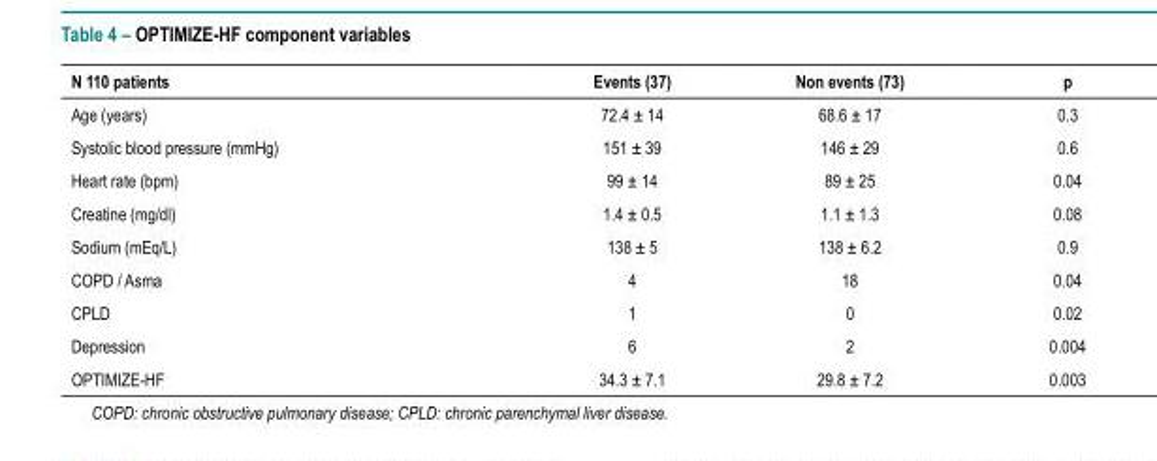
<table><thead><tr><td>N 110 patients</td><td>Events (37)</td><td>Non events (73)</td><td>p</td></tr></thead><tbody><tr><td>Age (years)</td><td>72.4 ± 14</td><td>68.6 ± 17</td><td>0.3</td></tr><tr><td>Systolic blood pressure (mmHg)</td><td>151 ± 39</td><td>146 ± 29</td><td>0.6</td></tr><tr><td>Heart rate (bpm)</td><td>99 ± 14</td><td>89 ± 25</td><td>0.04</td></tr><tr><td>Creatine (mg/dl)</td><td>1.4 ± 0.5</td><td>1.1 ± 1.3</td><td>0.08</td></tr><tr><td>Sodium (mEq/L)</td><td>138 ± 5</td><td>138 ± 6.2</td><td>0.9</td></tr><tr><td>COPD / Asma</td><td>4</td><td>18</td><td>0.04</td></tr><tr><td>CPLD</td><td>1</td><td>0</td><td>0.02</td></tr><tr><td>Depression</td><td>6</td><td>2</td><td>0.004</td></tr><tr><td>OPTIMIZE-HF</td><td>34.3 ± 7.1</td><td>29.8 ± 7.2</td><td>0.003</td></tr></tbody></table>